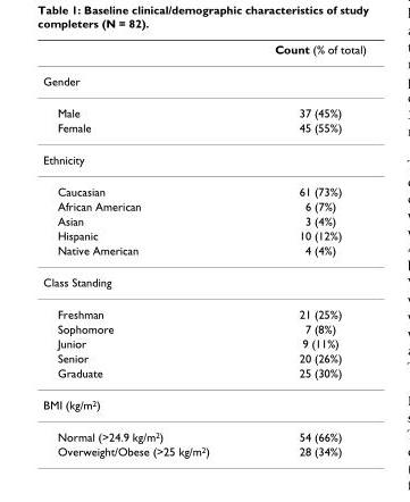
<table><thead><tr><td></td><td>Count (% of total)</td></tr></thead><tbody><tr><td colspan="2">Gender</td></tr><tr><td>Male</td><td>37 (45%)</td></tr><tr><td>Female</td><td>45 (55%)</td></tr><tr><td colspan="2">Ethnicity</td></tr><tr><td>Caucasian</td><td>61 (73%)</td></tr><tr><td>African American</td><td>6 (7%)</td></tr><tr><td>Asian</td><td>3 (4%)</td></tr><tr><td>Hispanic</td><td>10 (12%)</td></tr><tr><td>Native American</td><td>4 (4%)</td></tr><tr><td colspan="2">Class Standing</td></tr><tr><td>Freshman</td><td>21 (25%)</td></tr><tr><td>Sophomore</td><td>7 (8%)</td></tr><tr><td>Junior</td><td>9 (11%)</td></tr><tr><td>Senior</td><td>20 (26%)</td></tr><tr><td>Graduate</td><td>25 (30%)</td></tr><tr><td colspan="2">BMI (kg/m<sup>2</sup>)</td></tr><tr><td>Normal (&gt;24.9 kg/m<sup>2</sup>)</td><td>54 (66%)</td></tr><tr><td>Overweight/Obese (&gt;25 kg/m<sup>2</sup>)</td><td>28 (34%)</td></tr></tbody></table>